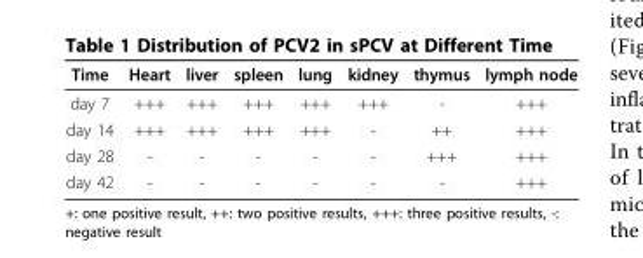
<table><thead><tr><td>Time</td><td>Heart</td><td>liver</td><td>spleen</td><td>lung</td><td>kidney</td><td>thymus</td><td>lymph node</td></tr></thead><tbody><tr><td>day 7</td><td>+++</td><td>+++</td><td>+++</td><td>+++</td><td>+++</td><td>-</td><td>+++</td></tr><tr><td>day 14</td><td>+++</td><td>+++</td><td>+++</td><td>+++</td><td>-</td><td>++</td><td>+++</td></tr><tr><td>day 28</td><td>-</td><td>-</td><td>-</td><td>-</td><td>-</td><td>+++</td><td>+++</td></tr><tr><td>day 42</td><td>-</td><td>-</td><td>-</td><td>-</td><td>-</td><td>-</td><td>+++</td></tr></tbody></table>